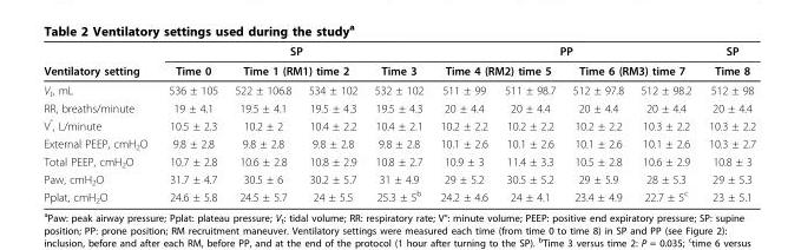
<table><thead><tr><td rowspan="3">Ventilatory setting V<sub>t</sub>, mL</td><td colspan="4">SP</td><td colspan="4">PP</td><td rowspan="3">SP Time 8 512 ± 98</td></tr><tr><td rowspan="2">Time 0 536 ± 105</td><td colspan="2">Time 1 (RM1) time 2</td><td rowspan="2">Time 3 532 ± 102</td><td colspan="2">Time 4 (RM2) time 5</td><td colspan="2">Time 6 (RM3) time 7</td></tr><tr><td>522 ± 106.8</td><td>534 ± 102</td><td>511 ± 99</td><td>511 ± 98.7</td><td>512 ± 97.8</td><td>512 ± 98.2</td></tr></thead><tbody><tr><td>RR, breaths/minute</td><td>19 ± 4.1</td><td>19.5 ± 4.1</td><td>19.5 ± 4.3</td><td>19.5 ± 4.3</td><td>20 ± 4.4</td><td>20 ± 4.4</td><td>20 ± 4.4</td><td>20 ± 4.4</td><td>20 ± 4.4</td></tr><tr><td>V<sup>°</sup>, L/minute</td><td>10.5 ± 2.3</td><td>10.2 ± 2</td><td>10.4 ± 2.2</td><td>10.4 ± 2.1</td><td>10.2 ± 2.2</td><td>10.2 ± 2.2</td><td>10.2 ± 2.2</td><td>10.3 ± 2.2</td><td>10.3 ± 2.2</td></tr><tr><td>External PEEP, cmH<sub>2</sub>O</td><td>9.8 ± 2.8</td><td>9.8 ± 2.8</td><td>9.8 ± 2.8</td><td>9.8 ± 2.8</td><td>10.1 ± 2.6</td><td>10.1 ± 2.6</td><td>10.1 ± 2.6</td><td>10.1 ± 2.6</td><td>10.3 ± 2.7</td></tr><tr><td>Total PEEP, cmH<sub>2</sub>O</td><td>10.7 ± 2.8</td><td>10.6 ± 2.8</td><td>10.8 ± 2.9</td><td>10.8 ± 2.7</td><td>10.9 ± 3</td><td>11.4 ± 3.3</td><td>10.5 ± 2.8</td><td>10.6 ± 2.9</td><td>10.8 ± 3</td></tr><tr><td>Paw, cmH<sub>2</sub>O</td><td>31.7 ± 4.7</td><td>30.5 ± 6</td><td>30.2 ± 5.7</td><td>31 ± 4.9</td><td>29 ± 5.2</td><td>30.5 ± 5.2</td><td>29 ± 5.9</td><td>28 ± 5.3</td><td>29 ± 5.3</td></tr><tr><td>Pplat, cmH<sub>2</sub>O</td><td>24.6 ± 5.8</td><td>24.5 ± 5.7</td><td>24 ± 5.5</td><td>25.3 ± 5<sup>b</sup></td><td>24.2 ± 4.6</td><td>24 ± 4.1</td><td>23.4 ± 4.9</td><td>22.7 ± 5<sup>c</sup></td><td>23 ± 5.1</td></tr></tbody></table>